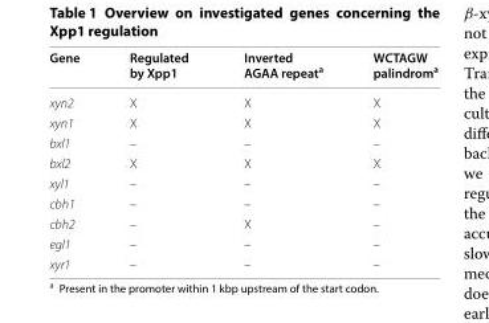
<table><thead><tr><td>Gene</td><td>Regulated by Xpp1</td><td>Inverted AGAA repeat<sup>a</sup></td><td>WCTAGW palindrom<sup>a</sup></td></tr></thead><tbody><tr><td>xyn2</td><td>X</td><td>X</td><td>X</td></tr><tr><td>xyn1</td><td>X</td><td>X</td><td>X</td></tr><tr><td>bxl1</td><td>–</td><td>–</td><td>–</td></tr><tr><td>bxl2</td><td>X</td><td>X</td><td>X</td></tr><tr><td>xyl1</td><td>–</td><td>–</td><td>–</td></tr><tr><td>cbh1</td><td>–</td><td>–</td><td>–</td></tr><tr><td>cbh2</td><td>–</td><td>X</td><td>–</td></tr><tr><td>egl1</td><td>–</td><td>–</td><td>–</td></tr><tr><td>xyr1</td><td>–</td><td>–</td><td>–</td></tr></tbody></table>